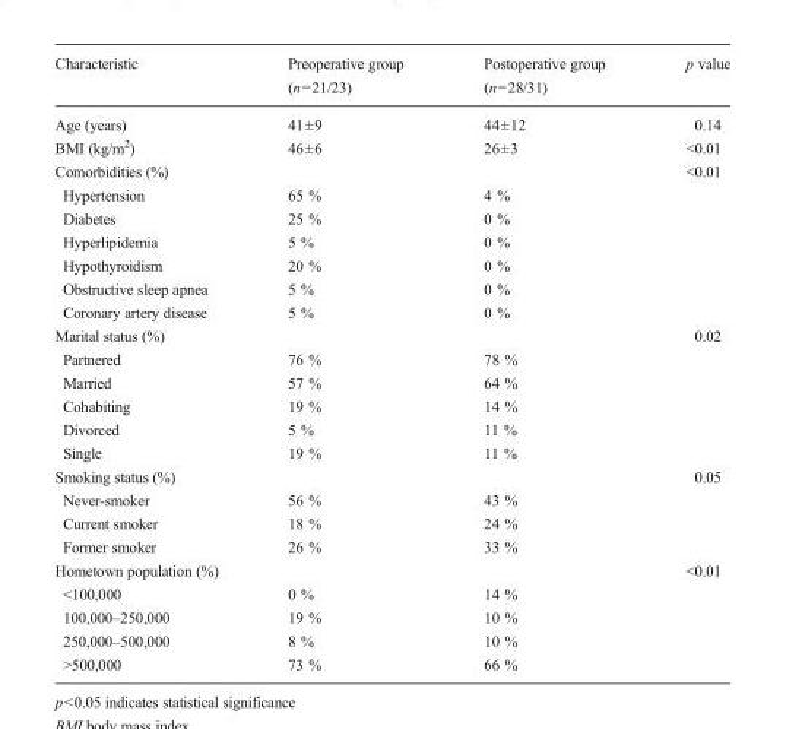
<table><thead><tr><td>Characteristic</td><td>Preoperative group (n=21/23)</td><td>Postoperative group (n=28/31)</td><td>p value</td></tr></thead><tbody><tr><td>Age (years)</td><td>41±9</td><td>44±12</td><td>0.14</td></tr><tr><td>BMI (kg/m<sup>2</sup>)</td><td>46±6</td><td>26±3</td><td>&lt;0.01</td></tr><tr><td colspan="3">Comorbidities (%)</td><td>&lt;0.01</td></tr><tr><td>Hypertension</td><td>65 %</td><td>4 %</td><td></td></tr><tr><td>Diabetes</td><td>25 %</td><td>0 %</td><td></td></tr><tr><td>Hyperlipidemia</td><td>5 %</td><td>0 %</td><td></td></tr><tr><td>Hypothyroidism</td><td>20 %</td><td>0 %</td><td></td></tr><tr><td>Obstructive sleep apnea</td><td>5 %</td><td>0 %</td><td></td></tr><tr><td>Coronary artery disease</td><td>5 %</td><td>0 %</td><td></td></tr><tr><td colspan="3">Marital status (%)</td><td>0.02</td></tr><tr><td>Partnered</td><td>76 %</td><td>78 %</td><td></td></tr><tr><td>Married</td><td>57 %</td><td>64 %</td><td></td></tr><tr><td>Cohabiting</td><td>19 %</td><td>14 %</td><td></td></tr><tr><td>Divorced</td><td>5 %</td><td>11 %</td><td></td></tr><tr><td>Single</td><td>19 %</td><td>11 %</td><td></td></tr><tr><td colspan="3">Smoking status (%)</td><td>0.05</td></tr><tr><td>Never-smoker</td><td>56 %</td><td>43 %</td><td></td></tr><tr><td>Current smoker</td><td>18 %</td><td>24 %</td><td></td></tr><tr><td>Former smoker</td><td>26 %</td><td>33 %</td><td></td></tr><tr><td colspan="3">Hometown population (%)</td><td>&lt;0.01</td></tr><tr><td>&lt;100,000</td><td>0 %</td><td>14 %</td><td></td></tr><tr><td>100,000–250,000</td><td>19 %</td><td>10 %</td><td></td></tr><tr><td>250,000–500,000</td><td>8 %</td><td>10 %</td><td></td></tr><tr><td>&gt;500,000</td><td>73 %</td><td>66 %</td><td></td></tr></tbody></table>